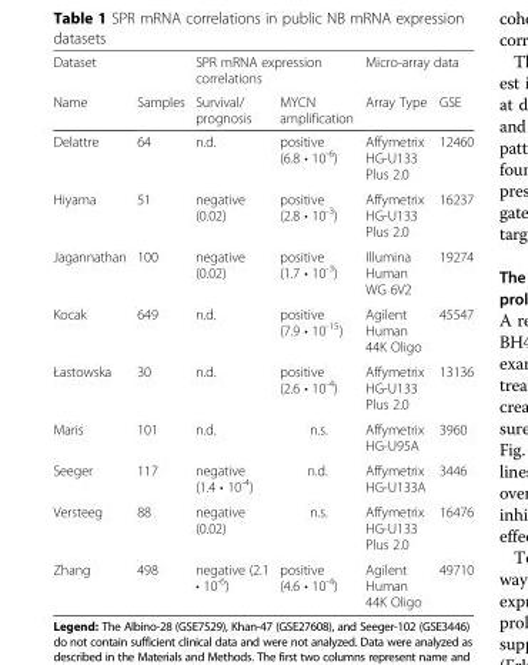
<table><thead><tr><td colspan="2">Dataset</td><td colspan="2">SPR mRNA expression correlations</td><td colspan="2">Micro-array data</td></tr><tr><td>Name</td><td>Samples</td><td>Survival/ prognosis</td><td>MYCN amplification</td><td>Array Type</td><td>GSE</td></tr></thead><tbody><tr><td>Delattre</td><td>64</td><td>n.d.</td><td>positive (6.8 • 10<sup>-6</sup>)</td><td>Affymetrix HG-U133 Plus 2.0</td><td>12460</td></tr><tr><td>Hiyama</td><td>51</td><td>negative (0.02)</td><td>positive (2.8 • 10<sup>-3</sup>)</td><td>Affymetrix HG-U133 Plus 2.0</td><td>16237</td></tr><tr><td>Jagannathan</td><td>100</td><td>negative (0.02)</td><td>positive (1.7 • 10<sup>-3</sup>)</td><td>Illumina Human WG 6V2</td><td>19274</td></tr><tr><td>Kocak</td><td>649</td><td>n.d.</td><td>positive (7.9 • 10<sup>-15</sup>)</td><td>Agilent Human 44K Oligo</td><td>45547</td></tr><tr><td>Łastowska</td><td>30</td><td>n.d.</td><td>positive (2.6 • 10<sup>-4</sup>)</td><td>Affymetrix HG-U133 Plus 2.0</td><td>13136</td></tr><tr><td>Maris</td><td>101</td><td>n.d.</td><td>n.s.</td><td>Affymetrix HG-U95A</td><td>3960</td></tr><tr><td>Seeger</td><td>117</td><td>negative (1.4 • 10<sup>-4</sup>)</td><td>n.d.</td><td>Affymetrix HG-U133A</td><td>3446</td></tr><tr><td>Versteeg</td><td>88</td><td>negative (0.02)</td><td>n.s.</td><td>Affymetrix HG-U133 Plus 2.0</td><td>16476</td></tr><tr><td>Zhang</td><td>498</td><td>negative (2.1 • 10<sup>-6</sup>)</td><td>positive (4.6 • 10<sup>-4</sup>)</td><td>Agilent Human 44K Oligo</td><td>49710</td></tr></tbody></table>